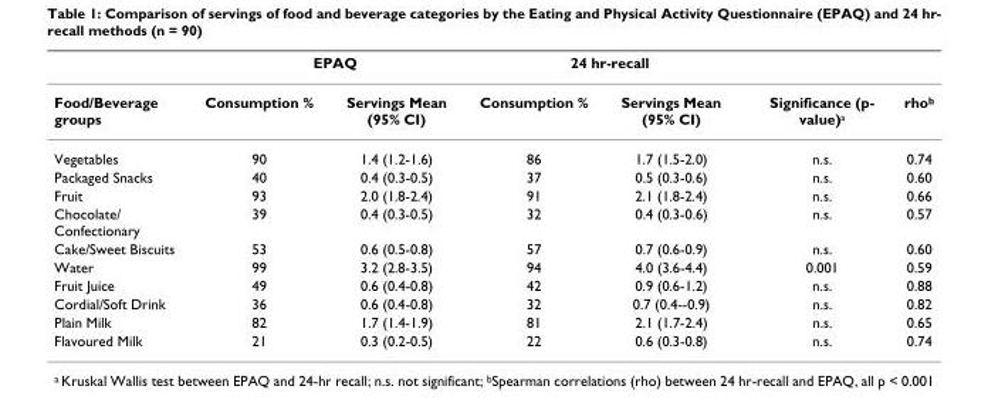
<table><thead><tr><td rowspan="2">Food/Beverage groups</td><td colspan="2">EPAQ</td><td colspan="2">24 hr-recall</td><td rowspan="2">Significance (p- value)<sup>a</sup></td><td rowspan="2">rho<sup>b</sup></td></tr><tr><td>Consumption %</td><td>Servings Mean (95% CI)</td><td>Consumption %</td><td>Servings Mean (95% CI)</td></tr></thead><tbody><tr><td>Vegetables</td><td>90</td><td>1.4 (1.2-1.6)</td><td>86</td><td>1.7 (1.5-2.0)</td><td>n.s.</td><td>0.74</td></tr><tr><td>Packaged Snacks</td><td>40</td><td>0.4 (0.3-0.5)</td><td>37</td><td>0.5 (0.3-0.6)</td><td>n.s.</td><td>0.60</td></tr><tr><td>Fruit</td><td>93</td><td>2.0 (1.8-2.4)</td><td>91</td><td>2.1 (1.8-2.4)</td><td>n.s.</td><td>0.66</td></tr><tr><td>Chocolate/ Confectionary</td><td>39</td><td>0.4 (0.3-0.5)</td><td>32</td><td>0.4 (0.3-0.6)</td><td>n.s.</td><td>0.57</td></tr><tr><td>Cake/Sweet Biscuits</td><td>53</td><td>0.6 (0.5-0.8)</td><td>57</td><td>0.7 (0.6-0.9)</td><td>n.s.</td><td>0.60</td></tr><tr><td>Water</td><td>99</td><td>3.2 (2.8-3.5)</td><td>94</td><td>4.0 (3.6-4.4)</td><td>0.001</td><td>0.59</td></tr><tr><td>Fruit Juice</td><td>49</td><td>0.6 (0.4-0.8)</td><td>42</td><td>0.9 (0.6-1.2)</td><td>n.s.</td><td>0.88</td></tr><tr><td>Cordial/Soft Drink</td><td>36</td><td>0.6 (0.4-0.8)</td><td>32</td><td>0.7 (0.4--0.9)</td><td>n.s.</td><td>0.82</td></tr><tr><td>Plain Milk</td><td>82</td><td>1.7 (1.4-1.9)</td><td>81</td><td>2.1 (1.7-2.4)</td><td>n.s.</td><td>0.65</td></tr><tr><td>Flavoured Milk</td><td>21</td><td>0.3 (0.2-0.5)</td><td>22</td><td>0.6 (0.3-0.8)</td><td>n.s.</td><td>0.74</td></tr></tbody></table>